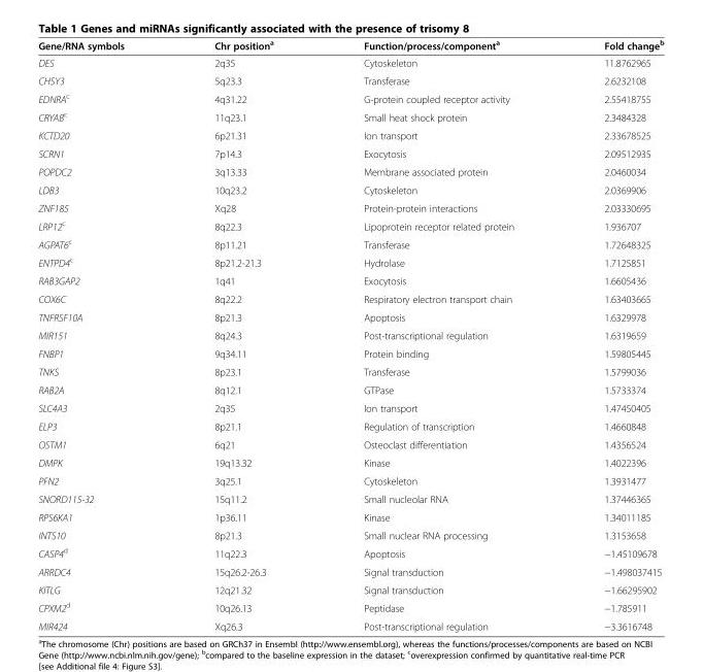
<table><thead><tr><td>Gene/RNA symbols</td><td>Chr position<sup>a</sup></td><td>Function/process/component<sup>a</sup></td><td>Fold change<sup>b</sup></td></tr></thead><tbody><tr><td>DES</td><td>2q35</td><td>Cytoskeleton</td><td>11.8762965</td></tr><tr><td>CHSY3</td><td>5q23.3</td><td>Transferase</td><td>2.6232108</td></tr><tr><td>EDNRA<sup>c</sup></td><td>4q31.22</td><td>G-protein coupled receptor activity</td><td>2.55418755</td></tr><tr><td>CRYAB<sup>c</sup></td><td>11q23.1</td><td>Small heat shock protein</td><td>2.3484328</td></tr><tr><td>KCTD20</td><td>6p21.31</td><td>Ion transport</td><td>2.33678525</td></tr><tr><td>SCRN1</td><td>7p14.3</td><td>Exocytosis</td><td>2.09512935</td></tr><tr><td>POPDC2</td><td>3q13.33</td><td>Membrane associated protein</td><td>2.0460034</td></tr><tr><td>LDB3</td><td>10q23.2</td><td>Cytoskeleton</td><td>2.0369906</td></tr><tr><td>ZNF185</td><td>Xq28</td><td>Protein-protein interactions</td><td>2.03330695</td></tr><tr><td>LRP12<sup>c</sup></td><td>8q22.3</td><td>Lipoprotein receptor related protein</td><td>1.936707</td></tr><tr><td>AGPAT6<sup>c</sup></td><td>8p11.21</td><td>Transferase</td><td>1.72648325</td></tr><tr><td>ENTPD4<sup>c</sup></td><td>8p21.2-21.3</td><td>Hydrolase</td><td>1.7125851</td></tr><tr><td>RAB3GAP2</td><td>1q41</td><td>Exocytosis</td><td>1.6605436</td></tr><tr><td>COX6C</td><td>8q22.2</td><td>Respiratory electron transport chain</td><td>1.63403665</td></tr><tr><td>TNFRSF10A</td><td>8p21.3</td><td>Apoptosis</td><td>1.6329978</td></tr><tr><td>MIR151</td><td>8q24.3</td><td>Post-transcriptional regulation</td><td>1.6319659</td></tr><tr><td>FNBP1</td><td>9q34.11</td><td>Protein binding</td><td>1.59805445</td></tr><tr><td>TNKS</td><td>8p23.1</td><td>Transferase</td><td>1.5799036</td></tr><tr><td>RAB2A</td><td>8q12.1</td><td>GTPase</td><td>1.5733374</td></tr><tr><td>SLC4A3</td><td>2q35</td><td>Ion transport</td><td>1.47450405</td></tr><tr><td>ELP3</td><td>8p21.1</td><td>Regulation of transcription</td><td>1.4660848</td></tr><tr><td>OSTM1</td><td>6q21</td><td>Osteoclast differentiation</td><td>1.4356524</td></tr><tr><td>DMPK</td><td>19q13.32</td><td>Kinase</td><td>1.4022396</td></tr><tr><td>PFN2</td><td>3q25.1</td><td>Cytoskeleton</td><td>1.3931477</td></tr><tr><td>SNORD115-32</td><td>15q11.2</td><td>Small nucleolar RNA</td><td>1.37446365</td></tr><tr><td>RPS6KA1</td><td>1p36.11</td><td>Kinase</td><td>1.34011185</td></tr><tr><td>INTS10</td><td>8p21.3</td><td>Small nuclear RNA processing</td><td>1.3153658</td></tr><tr><td>CASP4<sup>d</sup></td><td>11q22.3</td><td>Apoptosis</td><td>−1.45109678</td></tr><tr><td>ARRDC4</td><td>15q26.2-26.3</td><td>Signal transduction</td><td>−1.498037415</td></tr><tr><td>KITLG</td><td>12q21.32</td><td>Signal transduction</td><td>−1.66295902</td></tr><tr><td>CPXM2<sup>d</sup></td><td>10q26.13</td><td>Peptidase</td><td>−1.785911</td></tr><tr><td>MIR424</td><td>Xq26.3</td><td>Post-transcriptional regulation</td><td>−3.3616748</td></tr></tbody></table>